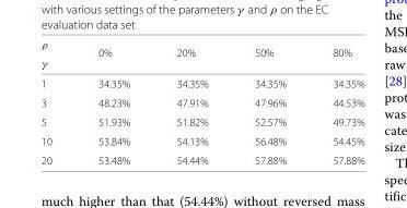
<table><thead><tr><td rowspan="2">ρ γ</td><td rowspan="2">0%</td><td rowspan="2">20%</td><td rowspan="2">50%</td><td rowspan="2">80%</td></tr><tr></tr></thead><tbody><tr><td>1</td><td>34.35%</td><td>34.35%</td><td>34.35%</td><td>34.35%</td></tr><tr><td>3</td><td>48.23%</td><td>47.91%</td><td>47.96%</td><td>44.53%</td></tr><tr><td>5</td><td>51.93%</td><td>51.82%</td><td>52.57%</td><td>49.73%</td></tr><tr><td>10</td><td>53.84%</td><td>54.13%</td><td>56.48%</td><td>54.45%</td></tr><tr><td>20</td><td>53.48%</td><td>54.44%</td><td>57.88%</td><td>57.88%</td></tr></tbody></table>